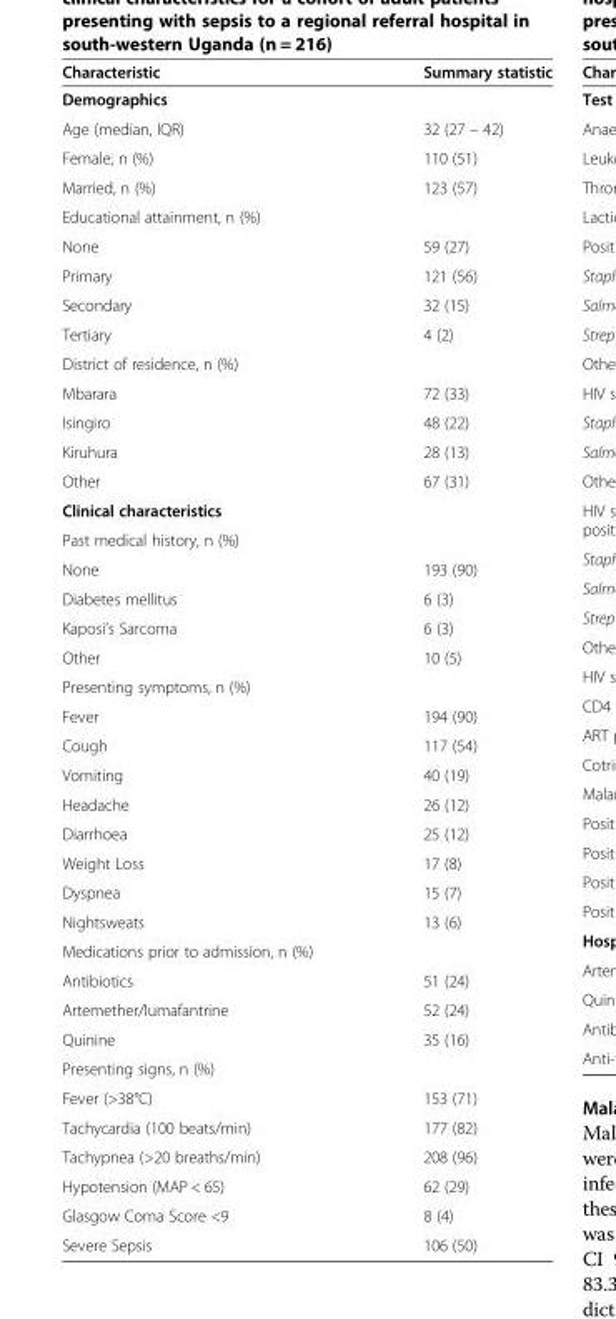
<table><thead><tr><td>Characteristic</td><td>Summary statistic</td></tr></thead><tbody><tr><td colspan="2">Demographics</td></tr><tr><td>Age (median, IQR)</td><td>32 (27 – 42)</td></tr><tr><td>Female, n (%)</td><td>110 (51)</td></tr><tr><td>Married, n (%)</td><td>123 (57)</td></tr><tr><td colspan="2">Educational attainment, n (%)</td></tr><tr><td>None</td><td>59 (27)</td></tr><tr><td>Primary</td><td>121 (56)</td></tr><tr><td>Secondary</td><td>32 (15)</td></tr><tr><td>Tertiary</td><td>4 (2)</td></tr><tr><td colspan="2">District of residence, n (%)</td></tr><tr><td>Mbarara</td><td>72 (33)</td></tr><tr><td>Isingiro</td><td>48 (22)</td></tr><tr><td>Kiruhura</td><td>28 (13)</td></tr><tr><td>Other</td><td>67 (31)</td></tr><tr><td colspan="2">Clinical characteristics</td></tr><tr><td colspan="2">Past medical history, n (%)</td></tr><tr><td>None</td><td>193 (90)</td></tr><tr><td>Diabetes mellitus</td><td>6 (3)</td></tr><tr><td>Kaposi’s Sarcoma</td><td>6 (3)</td></tr><tr><td>Other</td><td>10 (5)</td></tr><tr><td colspan="2">Presenting symptoms, n (%)</td></tr><tr><td>Fever</td><td>194 (90)</td></tr><tr><td>Cough</td><td>117 (54)</td></tr><tr><td>Vomiting</td><td>40 (19)</td></tr><tr><td>Headache</td><td>26 (12)</td></tr><tr><td>Diarrhoea</td><td>25 (12)</td></tr><tr><td>Weight Loss</td><td>17 (8)</td></tr><tr><td>Dyspnea</td><td>15 (7)</td></tr><tr><td>Nightsweats</td><td>13 (6)</td></tr><tr><td colspan="2">Medications prior to admission, n (%)</td></tr><tr><td>Antibiotics</td><td>51 (24)</td></tr><tr><td>Artemether/lumafantrine</td><td>52 (24)</td></tr><tr><td>Quinine</td><td>35 (16)</td></tr><tr><td colspan="2">Presenting signs, n (%)</td></tr><tr><td>Fever (&gt;38°C)</td><td>153 (71)</td></tr><tr><td>Tachycardia (100 beats/min)</td><td>177 (82)</td></tr><tr><td>Tachypnea (&gt;20 breaths/min)</td><td>208 (96)</td></tr><tr><td>Hypotension (MAP &lt; 65)</td><td>62 (29)</td></tr><tr><td>Glasgow Coma Score &lt;9</td><td>8 (4)</td></tr><tr><td>Severe Sepsis</td><td>106 (50)</td></tr></tbody></table>